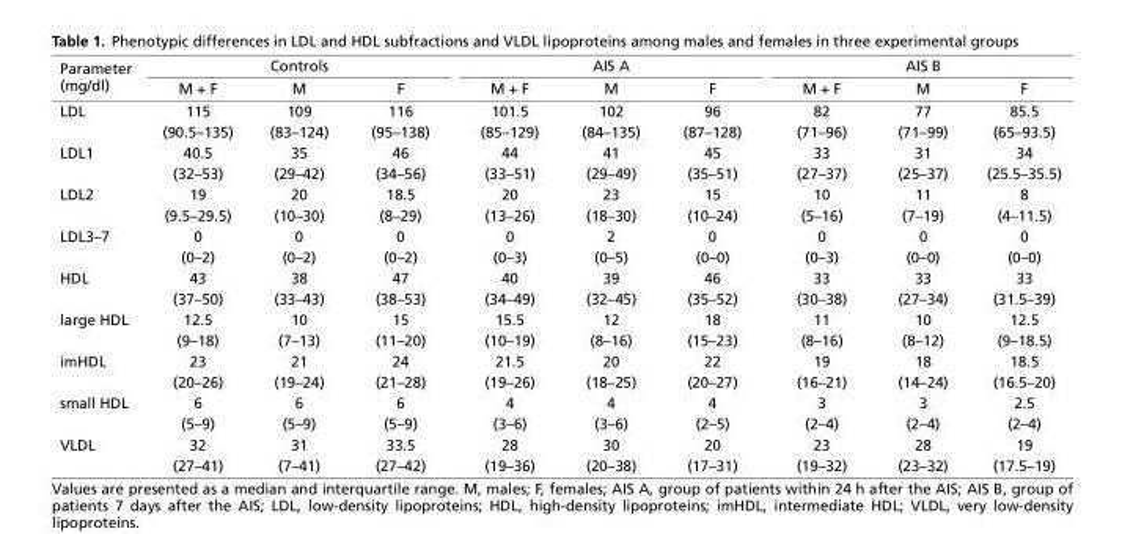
<table><thead><tr><td rowspan="2">Parameter (mg/dl)</td><td colspan="3">Controls</td><td colspan="3">AIS A</td><td colspan="3">AIS B</td></tr><tr><td>M + F</td><td>M</td><td>F</td><td>M + F</td><td>M</td><td>F</td><td>M + F</td><td>M</td><td>F</td></tr></thead><tbody><tr><td rowspan="2">LDL</td><td>115</td><td>109</td><td>116</td><td>101.5</td><td>102</td><td>96</td><td>82</td><td>77</td><td>85.5</td></tr><tr><td>(90.5–135)</td><td>(83–124)</td><td>(95–138)</td><td>(85–129)</td><td>(84–135)</td><td>(87–128)</td><td>(71–96)</td><td>(71–99)</td><td>(65–93.5)</td></tr><tr><td rowspan="2">LDL1</td><td>40.5</td><td>35</td><td>46</td><td>44</td><td>41</td><td>45</td><td>33</td><td>31</td><td>34</td></tr><tr><td>(32–53)</td><td>(29–42)</td><td>(34–56)</td><td>(33–51)</td><td>(29–49)</td><td>(35–51)</td><td>(27–37)</td><td>(25–37)</td><td>(25.5–35.5)</td></tr><tr><td rowspan="2">LDL2</td><td>19</td><td>20</td><td>18.5</td><td>20</td><td>23</td><td>15</td><td>10</td><td>11</td><td>8</td></tr><tr><td>(9.5–29.5)</td><td>(10–30)</td><td>(8–29)</td><td>(13–26)</td><td>(18–30)</td><td>(10–24)</td><td>(5–16)</td><td>(7–19)</td><td>(4–11.5)</td></tr><tr><td rowspan="2">LDL3–7</td><td>0</td><td>0</td><td>0</td><td>0</td><td>2</td><td>0</td><td>0</td><td>0</td><td>0</td></tr><tr><td>(0–2)</td><td>(0–2)</td><td>(0–2)</td><td>(0–3)</td><td>(0–5)</td><td>(0–0)</td><td>(0–3)</td><td>(0–0)</td><td>(0–0)</td></tr><tr><td rowspan="2">HDL</td><td>43</td><td>38</td><td>47</td><td>40</td><td>39</td><td>46</td><td>33</td><td>33</td><td>33</td></tr><tr><td>(37–50)</td><td>(33–43)</td><td>(38–53)</td><td>(34–49)</td><td>(32–45)</td><td>(35–52)</td><td>(30–38)</td><td>(27–34)</td><td>(31.5–39)</td></tr><tr><td rowspan="2">large HDL</td><td>12.5</td><td>10</td><td>15</td><td>15.5</td><td>12</td><td>18</td><td>11</td><td>10</td><td>12.5</td></tr><tr><td>(9–18)</td><td>(7–13)</td><td>(11–20)</td><td>(10–19)</td><td>(8–16)</td><td>(15–23)</td><td>(8–16)</td><td>(8–12)</td><td>(9–18.5)</td></tr><tr><td rowspan="2">imHDL</td><td>23</td><td>21</td><td>24</td><td>21.5</td><td>20</td><td>22</td><td>19</td><td>18</td><td>18.5</td></tr><tr><td>(20–26)</td><td>(19–24)</td><td>(21–28)</td><td>(19–26)</td><td>(18–25)</td><td>(20–27)</td><td>(16–21)</td><td>(14–24)</td><td>(16.5–20)</td></tr><tr><td rowspan="2">small HDL</td><td>6</td><td>6</td><td>6</td><td>4</td><td>4</td><td>4</td><td>3</td><td>3</td><td>2.5</td></tr><tr><td>(5–9)</td><td>(5–9)</td><td>(5–9)</td><td>(3–6)</td><td>(3–6)</td><td>(2–5)</td><td>(2–4)</td><td>(2–4)</td><td>(2–4)</td></tr><tr><td rowspan="2">VLDL</td><td>32</td><td>31</td><td>33.5</td><td>28</td><td>30</td><td>20</td><td>23</td><td>28</td><td>19</td></tr><tr><td>(27–41)</td><td>(7–41)</td><td>(27–42)</td><td>(19–36)</td><td>(20–38)</td><td>(17–31)</td><td>(19–32)</td><td>(23–32)</td><td>(17.5–19)</td></tr></tbody></table>